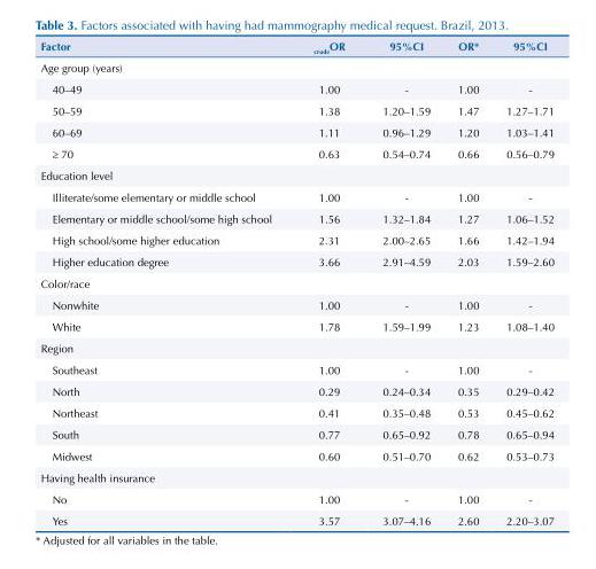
<table><thead><tr><td>Factor</td><td><sub>crude</sub>OR</td><td>95%CI</td><td>OR*</td><td>95%CI</td></tr></thead><tbody><tr><td colspan="5">Age group (years)</td></tr><tr><td>40–49</td><td>1.00</td><td>-</td><td>1.00</td><td>-</td></tr><tr><td>50–59</td><td>1.38</td><td>1.20–1.59</td><td>1.47</td><td>1.27–1.71</td></tr><tr><td>60–69</td><td>1.11</td><td>0.96–1.29</td><td>1.20</td><td>1.03–1.41</td></tr><tr><td>≥ 70</td><td>0.63</td><td>0.54–0.74</td><td>0.66</td><td>0.56–0.79</td></tr><tr><td colspan="5">Education level</td></tr><tr><td>Illiterate/some elementary or middle school</td><td>1.00</td><td>-</td><td>1.00</td><td>-</td></tr><tr><td>Elementary or middle school/some high school</td><td>1.56</td><td>1.32–1.84</td><td>1.27</td><td>1.06–1.52</td></tr><tr><td>High school/some higher education</td><td>2.31</td><td>2.00–2.65</td><td>1.66</td><td>1.42–1.94</td></tr><tr><td>Higher education degree</td><td>3.66</td><td>2.91–4.59</td><td>2.03</td><td>1.59–2.60</td></tr><tr><td colspan="5">Color/race</td></tr><tr><td>Nonwhite</td><td>1.00</td><td>-</td><td>1.00</td><td>-</td></tr><tr><td>White</td><td>1.78</td><td>1.59–1.99</td><td>1.23</td><td>1.08–1.40</td></tr><tr><td colspan="5">Region</td></tr><tr><td>Southeast</td><td>1.00</td><td>-</td><td>1.00</td><td>-</td></tr><tr><td>North</td><td>0.29</td><td>0.24–0.34</td><td>0.35</td><td>0.29–0.42</td></tr><tr><td>Northeast</td><td>0.41</td><td>0.35–0.48</td><td>0.53</td><td>0.45–0.62</td></tr><tr><td>South</td><td>0.77</td><td>0.65–0.92</td><td>0.78</td><td>0.65–0.94</td></tr><tr><td>Midwest</td><td>0.60</td><td>0.51–0.70</td><td>0.62</td><td>0.53–0.73</td></tr><tr><td colspan="5">Having health insurance</td></tr><tr><td>No</td><td>1.00</td><td>-</td><td>1.00</td><td>-</td></tr><tr><td>Yes</td><td>3.57</td><td>3.07–4.16</td><td>2.60</td><td>2.20–3.07</td></tr></tbody></table>